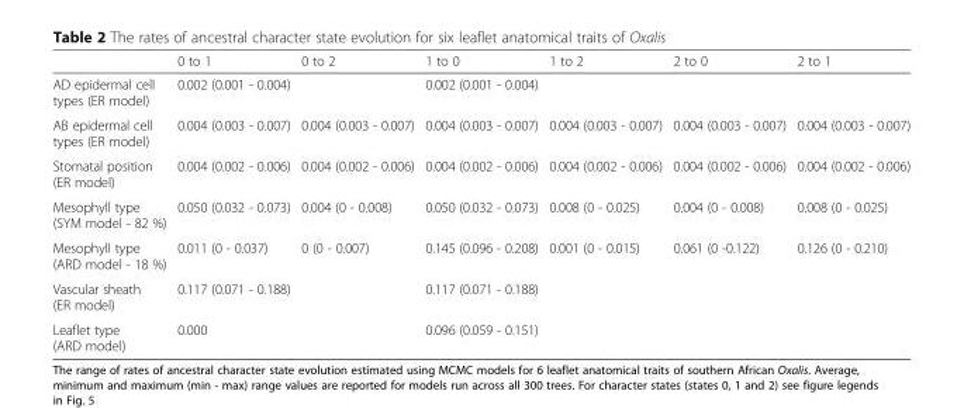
<table><thead><tr><td></td><td>0 to 1</td><td>0 to 2</td><td>1 to 0</td><td>1 to 2</td><td>2 to 0</td><td>2 to 1</td></tr></thead><tbody><tr><td>AD epidermal cell types (ER model)</td><td>0.002 (0.001 - 0.004)</td><td></td><td>0.002 (0.001 - 0.004)</td><td></td><td></td><td></td></tr><tr><td>AB epidermal cell types (ER model)</td><td>0.004 (0.003 - 0.007)</td><td>0.004 (0.003 - 0.007)</td><td>0.004 (0.003 - 0.007)</td><td>0.004 (0.003 - 0.007)</td><td>0.004 (0.003 - 0.007)</td><td>0.004 (0.003 - 0.007)</td></tr><tr><td>Stomatal position (ER model)</td><td>0.004 (0.002 - 0.006)</td><td>0.004 (0.002 - 0.006)</td><td>0.004 (0.002 - 0.006)</td><td>0.004 (0.002 - 0.006)</td><td>0.004 (0.002 - 0.006)</td><td>0.004 (0.002 - 0.006)</td></tr><tr><td>Mesophyll type (SYM model - 82 %)</td><td>0.050 (0.032 - 0.073)</td><td>0.004 (0 - 0.008)</td><td>0.050 (0.032 - 0.073)</td><td>0.008 (0 - 0.025)</td><td>0.004 (0 - 0.008)</td><td>0.008 (0 - 0.025)</td></tr><tr><td>Mesophyll type (ARD model - 18 %)</td><td>0.011 (0 - 0.037)</td><td>0 (0 - 0.007)</td><td>0.145 (0.096 - 0.208)</td><td>0.001 (0 - 0.015)</td><td>0.061 (0 -0.122)</td><td>0.126 (0 - 0.210)</td></tr><tr><td>Vascular sheath (ER model)</td><td>0.117 (0.071 - 0.188)</td><td></td><td>0.117 (0.071 - 0.188)</td><td></td><td></td><td></td></tr><tr><td>Leaflet type (ARD model)</td><td>0.000</td><td></td><td>0.096 (0.059 - 0.151)</td><td></td><td></td><td></td></tr></tbody></table>